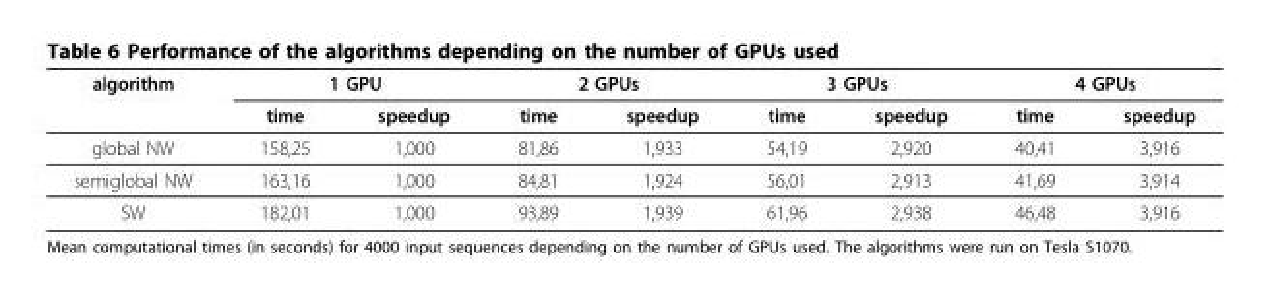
<table><thead><tr><td rowspan="2">algorithm</td><td colspan="2">1 GPU</td><td colspan="2">2 GPUs</td><td colspan="2">3 GPUs</td><td colspan="2">4 GPUs</td></tr><tr><td>time</td><td>speedup</td><td>time</td><td>speedup</td><td>time</td><td>speedup</td><td>time</td><td>speedup</td></tr></thead><tbody><tr><td>global NW</td><td>158,25</td><td>1,000</td><td>81,86</td><td>1,933</td><td>54,19</td><td>2,920</td><td>40,41</td><td>3,916</td></tr><tr><td>semiglobal NW</td><td>163,16</td><td>1,000</td><td>84,81</td><td>1,924</td><td>56,01</td><td>2,913</td><td>41,69</td><td>3,914</td></tr><tr><td>SW</td><td>182,01</td><td>1,000</td><td>93,89</td><td>1,939</td><td>61,96</td><td>2,938</td><td>46,48</td><td>3,916</td></tr></tbody></table>